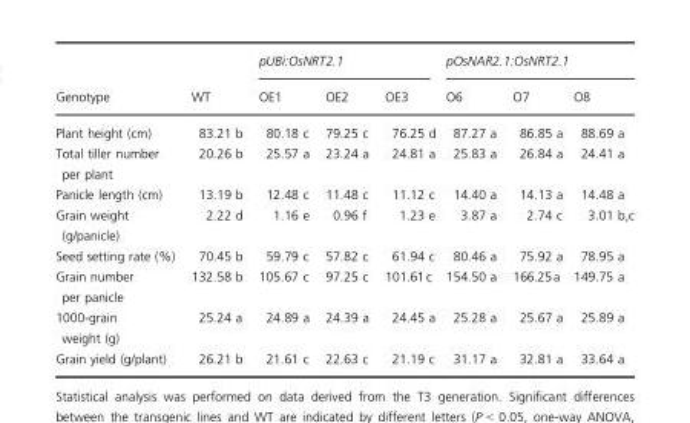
<table><thead><tr><td rowspan="2">Genotype</td><td rowspan="2">WT</td><td colspan="3">pUBi:OsNRT2.1</td><td colspan="3">pOsNAR2.1:OsNRT2.1</td></tr><tr><td>OE1</td><td>OE2</td><td>OE3</td><td>O6</td><td>O7</td><td>O8</td></tr></thead><tbody><tr><td>Plant height (cm)</td><td>83.21 b</td><td>80.18 c</td><td>79.25 c</td><td>76.25 d</td><td>87.27 a</td><td>86.85 a</td><td>88.69 a</td></tr><tr><td>Total tiller number per plant</td><td>20.26 b</td><td>25.57 a</td><td>23.24 a</td><td>24.81 a</td><td>25.83 a</td><td>26.84 a</td><td>24.41 a</td></tr><tr><td>Panicle length (cm)</td><td>13.19 b</td><td>12.48 c</td><td>11.48 c</td><td>11.12 c</td><td>14.40 a</td><td>14.13 a</td><td>14.48 a</td></tr><tr><td>Grain weight (g/panicle)</td><td>2.22 d</td><td>1.16 e</td><td>0.96 f</td><td>1.23 e</td><td>3.87 a</td><td>2.74 c</td><td>3.01 b,c</td></tr><tr><td>Seed setting rate (%)</td><td>70.45 b</td><td>59.79 c</td><td>57.82 c</td><td>61.94 c</td><td>80.46 a</td><td>75.92 a</td><td>78.95 a</td></tr><tr><td>Grain number per panicle</td><td>132.58 b</td><td>105.67 c</td><td>97.25 c</td><td>101.61c</td><td>154.50 a</td><td>166.25a</td><td>149.75 a</td></tr><tr><td>1000-grain weight (g)</td><td>25.24 a</td><td>24.89 a</td><td>24.39 a</td><td>24.45 a</td><td>25.28 a</td><td>25.67 a</td><td>25.89 a</td></tr><tr><td>Grain yield (g/plant)</td><td>26.21 b</td><td>21.61 c</td><td>22.63 c</td><td>21.19 c</td><td>31.17 a</td><td>32.81 a</td><td>33.64 a</td></tr></tbody></table>